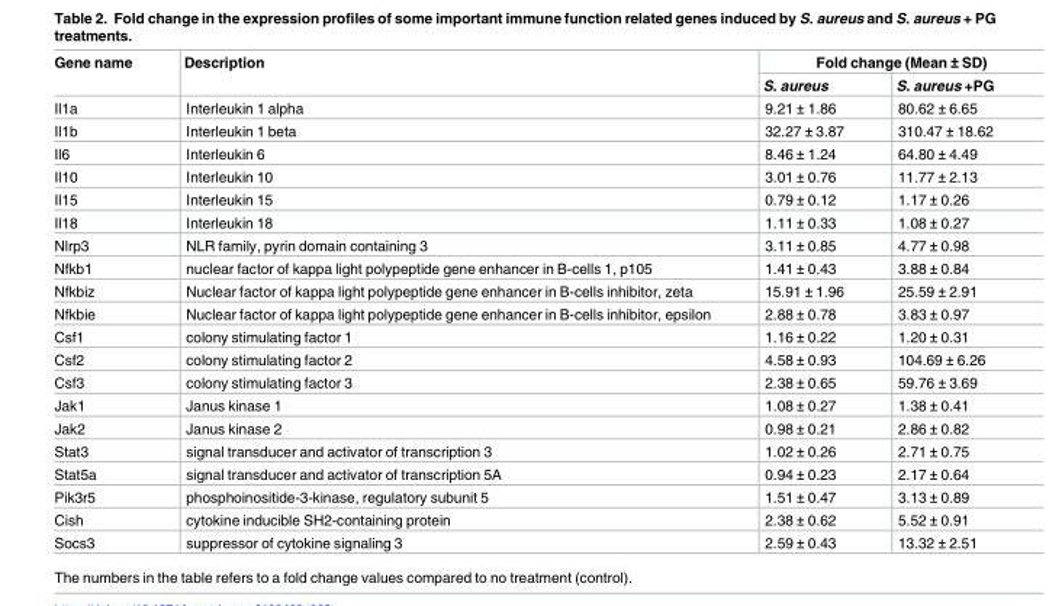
<table><thead><tr><td rowspan="2">Gene name</td><td rowspan="2">Description</td><td colspan="2">Fold change (Mean ± SD)</td></tr><tr><td>S. aureus</td><td>S. aureus +PG</td></tr></thead><tbody><tr><td>Il1a</td><td>Interleukin 1 alpha</td><td>9.21 ± 1.86</td><td>80.62 ± 6.65</td></tr><tr><td>Il1b</td><td>Interleukin 1 beta</td><td>32.27 ± 3.87</td><td>310.47 ± 18.62</td></tr><tr><td>Il6</td><td>Interleukin 6</td><td>8.46 ± 1.24</td><td>64.80 ± 4.49</td></tr><tr><td>Il10</td><td>Interleukin 10</td><td>3.01 ± 0.76</td><td>11.77 ± 2.13</td></tr><tr><td>Il15</td><td>Interleukin 15</td><td>0.79 ± 0.12</td><td>1.17 ± 0.26</td></tr><tr><td>Il18</td><td>Interleukin 18</td><td>1.11 ± 0.33</td><td>1.08 ± 0.27</td></tr><tr><td>Nlrp3</td><td>NLR family, pyrin domain containing 3</td><td>3.11 ± 0.85</td><td>4.77 ± 0.98</td></tr><tr><td>Nfkb1</td><td>nuclear factor of kappa light polypeptide gene enhancer in B-cells 1, p105</td><td>1.41 ± 0.43</td><td>3.88 ± 0.84</td></tr><tr><td>Nfkbiz</td><td>Nuclear factor of kappa light polypeptide gene enhancer in B-cells inhibitor, zeta</td><td>15.91 ± 1.96</td><td>25.59 ± 2.91</td></tr><tr><td>Nfkbie</td><td>Nuclear factor of kappa light polypeptide gene enhancer in B-cells inhibitor, epsilon</td><td>2.88 ± 0.78</td><td>3.83 ± 0.97</td></tr><tr><td>Csf1</td><td>colony stimulating factor 1</td><td>1.16 ± 0.22</td><td>1.20 ± 0.31</td></tr><tr><td>Csf2</td><td>colony stimulating factor 2</td><td>4.58 ± 0.93</td><td>104.69 ± 6.26</td></tr><tr><td>Csf3</td><td>colony stimulating factor 3</td><td>2.38 ± 0.65</td><td>59.76 ± 3.69</td></tr><tr><td>Jak1</td><td>Janus kinase 1</td><td>1.08 ± 0.27</td><td>1.38 ± 0.41</td></tr><tr><td>Jak2</td><td>Janus kinase 2</td><td>0.98 ± 0.21</td><td>2.86 ± 0.82</td></tr><tr><td>Stat3</td><td>signal transducer and activator of transcription 3</td><td>1.02 ± 0.26</td><td>2.71 ± 0.75</td></tr><tr><td>Stat5a</td><td>signal transducer and activator of transcription 5A</td><td>0.94 ± 0.23</td><td>2.17 ± 0.64</td></tr><tr><td>Pik3r5</td><td>phosphoinositide-3-kinase, regulatory subunit 5</td><td>1.51 ± 0.47</td><td>3.13 ± 0.89</td></tr><tr><td>Cish</td><td>cytokine inducible SH2-containing protein</td><td>2.38 ± 0.62</td><td>5.52 ± 0.91</td></tr><tr><td>Socs3</td><td>suppressor of cytokine signaling 3</td><td>2.59 ± 0.43</td><td>13.32 ± 2.51</td></tr></tbody></table>